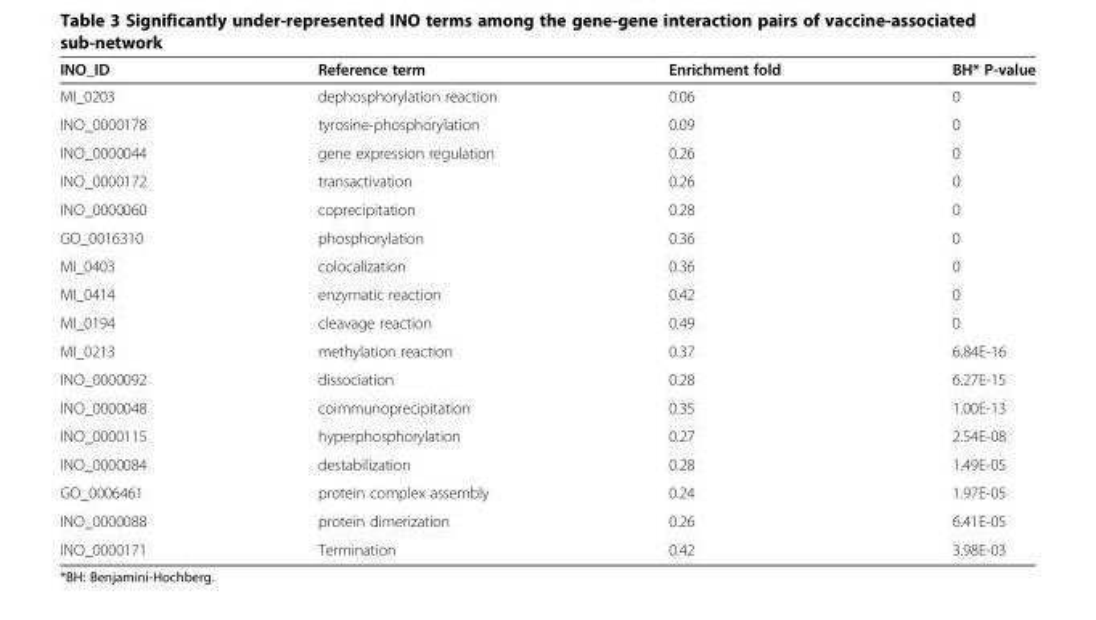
<table><thead><tr><td>INO_ID</td><td>Reference term</td><td>Enrichment fold</td><td>BH* P-value</td></tr></thead><tbody><tr><td>MI_0203</td><td>dephosphorylation reaction</td><td>0.06</td><td>0</td></tr><tr><td>INO_0000178</td><td>tyrosine-phosphorylation</td><td>0.09</td><td>0</td></tr><tr><td>INO_0000044</td><td>gene expression regulation</td><td>0.26</td><td>0</td></tr><tr><td>INO_0000172</td><td>transactivation</td><td>0.26</td><td>0</td></tr><tr><td>INO_0000060</td><td>coprecipitation</td><td>0.28</td><td>0</td></tr><tr><td>GO_0016310</td><td>phosphorylation</td><td>0.36</td><td>0</td></tr><tr><td>MI_0403</td><td>colocalization</td><td>0.36</td><td>0</td></tr><tr><td>MI_0414</td><td>enzymatic reaction</td><td>0.42</td><td>0</td></tr><tr><td>MI_0194</td><td>cleavage reaction</td><td>0.49</td><td>0</td></tr><tr><td>MI_0213</td><td>methylation reaction</td><td>0.37</td><td>6.84E-16</td></tr><tr><td>INO_0000092</td><td>dissociation</td><td>0.28</td><td>6.27E-15</td></tr><tr><td>INO_0000048</td><td>coimmunoprecipitation</td><td>0.35</td><td>1.00E-13</td></tr><tr><td>INO_0000115</td><td>hyperphosphorylation</td><td>0.27</td><td>2.54E-08</td></tr><tr><td>INO_0000084</td><td>destabilization</td><td>0.28</td><td>1.49E-05</td></tr><tr><td>GO_0006461</td><td>protein complex assembly</td><td>0.24</td><td>1.97E-05</td></tr><tr><td>INO_0000088</td><td>protein dimerization</td><td>0.26</td><td>6.41E-05</td></tr><tr><td>INO_0000171</td><td>Termination</td><td>0.42</td><td>3.98E-03</td></tr></tbody></table>